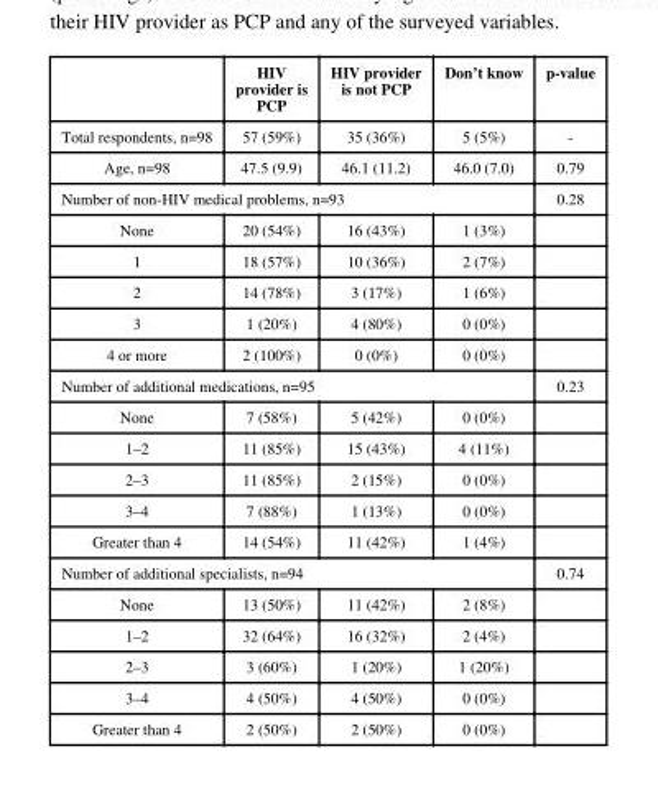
<table><thead><tr><td></td><td>HIV provider is PCP</td><td>HIV provider is not PCP</td><td>Don’t know</td><td>p-value</td></tr></thead><tbody><tr><td>Total respondents, n=98</td><td>57 (59%)</td><td>35 (36%)</td><td>5 (5%)</td><td>-</td></tr><tr><td>Age, n=98</td><td>47.5 (9.9)</td><td>46.1 (11.2)</td><td>46.0 (7.0)</td><td>0.79</td></tr><tr><td colspan="4">Number of non-HIV medical problems, n=93</td><td>0.28</td></tr><tr><td>None</td><td>20 (54%)</td><td>16 (43%)</td><td>1 (3%)</td><td></td></tr><tr><td>1</td><td>18 (57%)</td><td>10 (36%)</td><td>2 (7%)</td><td></td></tr><tr><td>2</td><td>14 (78%)</td><td>3 (17%)</td><td>1 (6%)</td><td></td></tr><tr><td>3</td><td>1 (20%)</td><td>4 (80%)</td><td>0 (0%)</td><td></td></tr><tr><td>4 or more</td><td>2 (100%)</td><td>0 (0%)</td><td>0 (0%)</td><td></td></tr><tr><td colspan="4">Number of additional medications, n=95</td><td>0.23</td></tr><tr><td>None</td><td>7 (58%)</td><td>5 (42%)</td><td>0 (0%)</td><td></td></tr><tr><td>1–2</td><td>11 (85%)</td><td>15 (43%)</td><td>4 (11%)</td><td></td></tr><tr><td>2–3</td><td>11 (85%)</td><td>2 (15%)</td><td>0 (0%)</td><td></td></tr><tr><td>3–4</td><td>7 (88%)</td><td>1 (13%)</td><td>0 (0%)</td><td></td></tr><tr><td>Greater than 4</td><td>14 (54%)</td><td>11 (42%)</td><td>1 (4%)</td><td></td></tr><tr><td colspan="4">Number of additional specialists, n=94</td><td>0.74</td></tr><tr><td>None</td><td>13 (50%)</td><td>11 (42%)</td><td>2 (8%)</td><td></td></tr><tr><td>1–2</td><td>32 (64%)</td><td>16 (32%)</td><td>2 (4%)</td><td></td></tr><tr><td>2–3</td><td>3 (60%)</td><td>1 (20%)</td><td>1 (20%)</td><td></td></tr><tr><td>3–4</td><td>4 (50%)</td><td>4 (50%)</td><td>0 (0%)</td><td></td></tr><tr><td>Greater than 4</td><td>2 (50%)</td><td>2 (50%)</td><td>0 (0%)</td><td></td></tr></tbody></table>